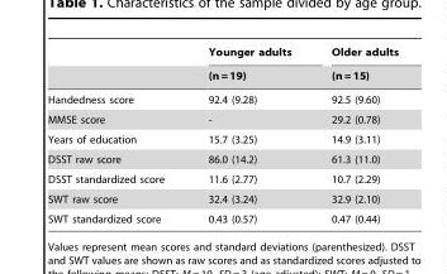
<table><thead><tr><td rowspan="2"></td><td rowspan="2">Younger adults (n = 19)</td><td rowspan="2">Older adults (n = 15)</td></tr><tr></tr></thead><tbody><tr><td>Handedness score</td><td>92.4 (9.28)</td><td>92.5 (9.60)</td></tr><tr><td>MMSE score</td><td>-</td><td>29.2 (0.78)</td></tr><tr><td>Years of education</td><td>15.7 (3.25)</td><td>14.9 (3.11)</td></tr><tr><td>DSST raw score</td><td>86.0 (14.2)</td><td>61.3 (11.0)</td></tr><tr><td>DSST standardized score</td><td>11.6 (2.77)</td><td>10.7 (2.29)</td></tr><tr><td>SWT raw score</td><td>32.4 (3.24)</td><td>32.9 (2.10)</td></tr><tr><td>SWT standardized score</td><td>0.43 (0.57)</td><td>0.47 (0.44)</td></tr></tbody></table>